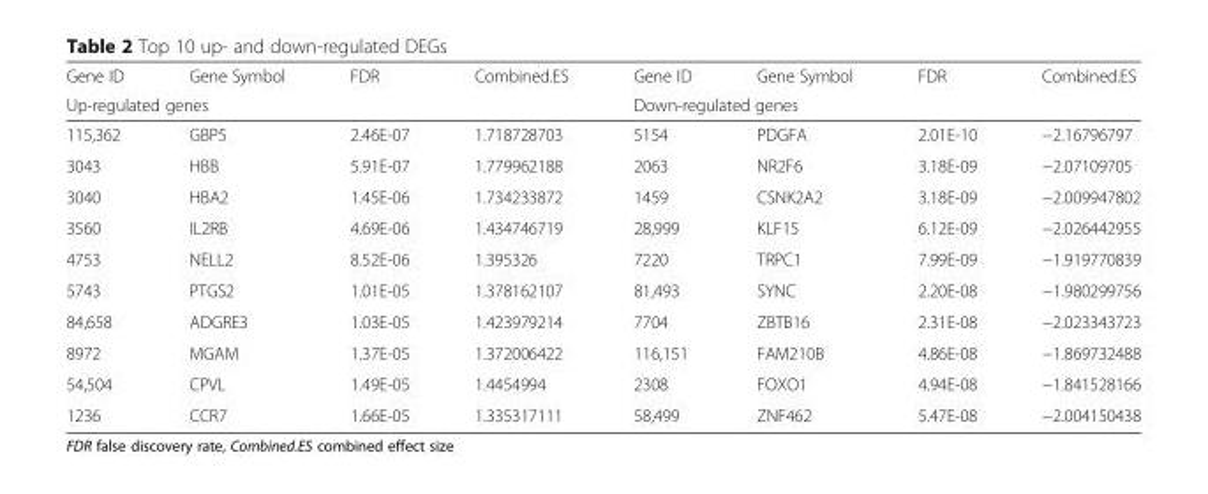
<table><thead><tr><td>Gene ID</td><td>Gene Symbol</td><td>FDR</td><td rowspan="2">Combined.ES</td><td>Gene ID</td><td>Gene Symbol</td><td>FDR</td><td rowspan="2">Combined.ES</td></tr><tr><td colspan="3">Up-regulated genes</td><td colspan="3">Down-regulated genes</td></tr></thead><tbody><tr><td>115,362</td><td>GBP5</td><td>2.46E-07</td><td>1.718728703</td><td>5154</td><td>PDGFA</td><td>2.01E-10</td><td>−2.16796797</td></tr><tr><td>3043</td><td>HBB</td><td>5.91E-07</td><td>1.779962188</td><td>2063</td><td>NR2F6</td><td>3.18E-09</td><td>−2.07109705</td></tr><tr><td>3040</td><td>HBA2</td><td>1.45E-06</td><td>1.734233872</td><td>1459</td><td>CSNK2A2</td><td>3.18E-09</td><td>−2.009947802</td></tr><tr><td>3560</td><td>IL2RB</td><td>4.69E-06</td><td>1.434746719</td><td>28,999</td><td>KLF15</td><td>6.12E-09</td><td>−2.026442955</td></tr><tr><td>4753</td><td>NELL2</td><td>8.52E-06</td><td>1.395326</td><td>7220</td><td>TRPC1</td><td>7.99E-09</td><td>−1.919770839</td></tr><tr><td>5743</td><td>PTGS2</td><td>1.01E-05</td><td>1.378162107</td><td>81,493</td><td>SYNC</td><td>2.20E-08</td><td>−1.980299756</td></tr><tr><td>84,658</td><td>ADGRE3</td><td>1.03E-05</td><td>1.423979214</td><td>7704</td><td>ZBTB16</td><td>2.31E-08</td><td>−2.023343723</td></tr><tr><td>8972</td><td>MGAM</td><td>1.37E-05</td><td>1.372006422</td><td>116,151</td><td>FAM210B</td><td>4.86E-08</td><td>−1.869732488</td></tr><tr><td>54,504</td><td>CPVL</td><td>1.49E-05</td><td>1.4454994</td><td>2308</td><td>FOXO1</td><td>4.94E-08</td><td>−1.841528166</td></tr><tr><td>1236</td><td>CCR7</td><td>1.66E-05</td><td>1.335317111</td><td>58,499</td><td>ZNF462</td><td>5.47E-08</td><td>−2.004150438</td></tr></tbody></table>